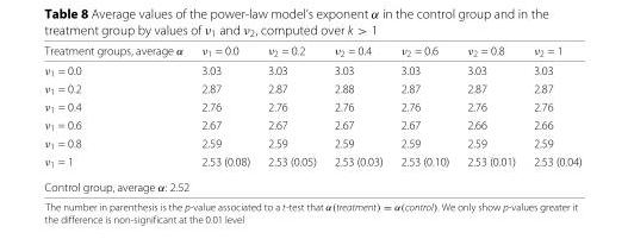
<table><thead><tr><td>Treatment groups, average α</td><td>ν<sub>1</sub> = 0.0</td><td>ν<sub>2</sub> = 0.2</td><td>ν<sub>2</sub> = 0.4</td><td>ν<sub>2</sub> = 0.6</td><td>ν<sub>2</sub> = 0.8</td><td>ν<sub>2</sub> = 1</td></tr></thead><tbody><tr><td>ν<sub>1</sub> = 0.0</td><td>3.03</td><td>3.03</td><td>3.03</td><td>3.03</td><td>3.03</td><td>3.03</td></tr><tr><td>ν<sub>1</sub> = 0.2</td><td>2.87</td><td>2.87</td><td>2.88</td><td>2.87</td><td>2.87</td><td>2.87</td></tr><tr><td>ν<sub>1</sub> = 0.4</td><td>2.76</td><td>2.76</td><td>2.76</td><td>2.76</td><td>2.76</td><td>2.76</td></tr><tr><td>ν<sub>1</sub> = 0.6</td><td>2.67</td><td>2.67</td><td>2.67</td><td>2.67</td><td>2.66</td><td>2.66</td></tr><tr><td>ν<sub>1</sub> = 0.8</td><td>2.59</td><td>2.59</td><td>2.59</td><td>2.59</td><td>2.59</td><td>2.59</td></tr><tr><td>ν<sub>1</sub> = 1</td><td>2.53 (0.08)</td><td>2.53 (0.05)</td><td>2.53 (0.03)</td><td>2.53 (0.10)</td><td>2.53 (0.01)</td><td>2.53 (0.04)</td></tr><tr><td colspan="7">Control group, average α: 2.52</td></tr></tbody></table>